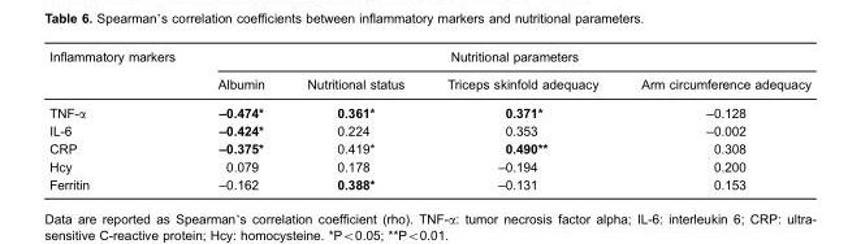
<table><thead><tr><td rowspan="2">Inflammatory markers</td><td colspan="4">Nutritional parameters</td></tr><tr><td>Albumin</td><td>Nutritional status</td><td>Triceps skinfold adequacy</td><td>Arm circumference adequacy</td></tr></thead><tbody><tr><td>TNF-α</td><td>–0.474*</td><td>0.361*</td><td>0.371*</td><td>–0.128</td></tr><tr><td>IL-6</td><td>–0.424*</td><td>0.224</td><td>0.353</td><td>–0.002</td></tr><tr><td>CRP</td><td>–0.375*</td><td>0.419*</td><td>0.490**</td><td>0.308</td></tr><tr><td>Hcy</td><td>0.079</td><td>0.178</td><td>–0.194</td><td>0.200</td></tr><tr><td>Ferritin</td><td>–0.162</td><td>0.388*</td><td>–0.131</td><td>0.153</td></tr></tbody></table>